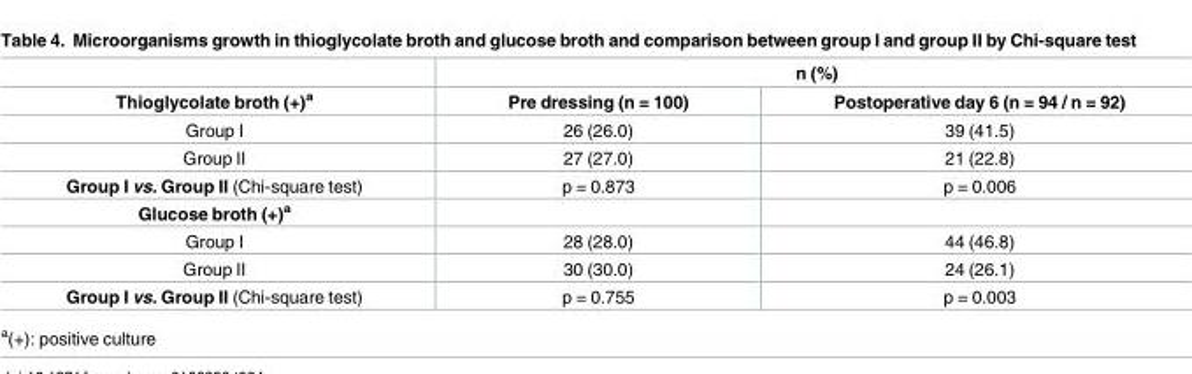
<table><thead><tr><td rowspan="2">Thioglycolate broth (+)<sup>a</sup></td><td colspan="2">n (%)</td></tr><tr><td>Pre dressing (n = 100)</td><td>Postoperative day 6 (n = 94 / n = 92)</td></tr></thead><tbody><tr><td>Group I</td><td>26 (26.0)</td><td>39 (41.5)</td></tr><tr><td>Group II</td><td>27 (27.0)</td><td>21 (22.8)</td></tr><tr><td>Group I vs. Group II (Chi-square test)</td><td>p = 0.873</td><td>p = 0.006</td></tr><tr><td colspan="3">Glucose broth (+)<sup>a</sup></td></tr><tr><td>Group I</td><td>28 (28.0)</td><td>44 (46.8)</td></tr><tr><td>Group II</td><td>30 (30.0)</td><td>24 (26.1)</td></tr><tr><td>Group I vs. Group II (Chi-square test)</td><td>p = 0.755</td><td>p = 0.003</td></tr></tbody></table>